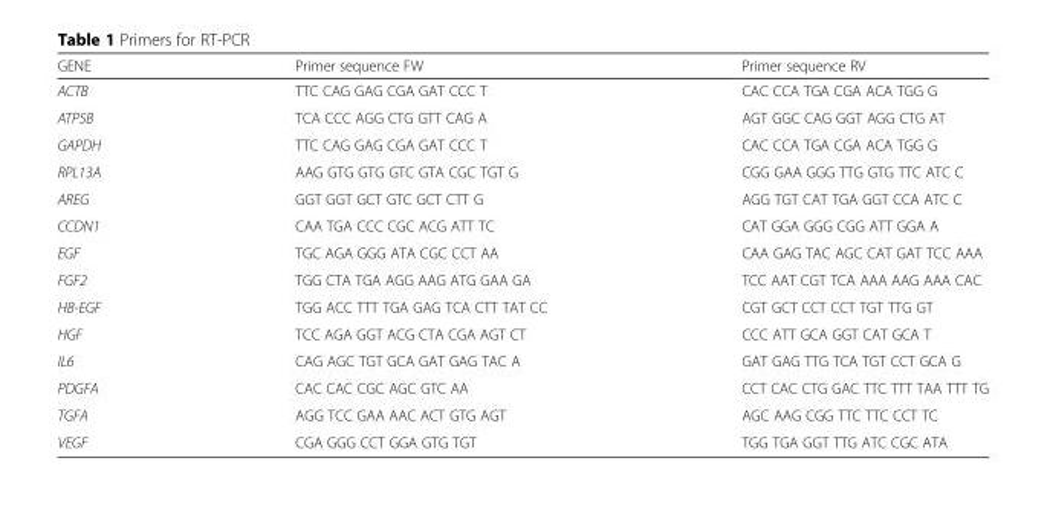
<table><thead><tr><td>GENE</td><td>Primer sequence FW</td><td>Primer sequence RV</td></tr></thead><tbody><tr><td>ACTB</td><td>TTC CAG GAG CGA GAT CCC T</td><td>CAC CCA TGA CGA ACA TGG G</td></tr><tr><td>ATP5B</td><td>TCA CCC AGG CTG GTT CAG A</td><td>AGT GGC CAG GGT AGG CTG AT</td></tr><tr><td>GAPDH</td><td>TTC CAG GAG CGA GAT CCC T</td><td>CAC CCA TGA CGA ACA TGG G</td></tr><tr><td>RPL13A</td><td>AAG GTG GTG GTC GTA CGC TGT G</td><td>CGG GAA GGG TTG GTG TTC ATC C</td></tr><tr><td>AREG</td><td>GGT GGT GCT GTC GCT CTT G</td><td>AGG TGT CAT TGA GGT CCA ATC C</td></tr><tr><td>CCDN1</td><td>CAA TGA CCC CGC ACG ATT TC</td><td>CAT GGA GGG CGG ATT GGA A</td></tr><tr><td>EGF</td><td>TGC AGA GGG ATA CGC CCT AA</td><td>CAA GAG TAC AGC CAT GAT TCC AAA</td></tr><tr><td>FGF2</td><td>TGG CTA TGA AGG AAG ATG GAA GA</td><td>TCC AAT CGT TCA AAA AAG AAA CAC</td></tr><tr><td>HB-EGF</td><td>TGG ACC TTT TGA GAG TCA CTT TAT CC</td><td>CGT GCT CCT CCT TGT TTG GT</td></tr><tr><td>HGF</td><td>TCC AGA GGT ACG CTA CGA AGT CT</td><td>CCC ATT GCA GGT CAT GCA T</td></tr><tr><td>IL6</td><td>CAG AGC TGT GCA GAT GAG TAC A</td><td>GAT GAG TTG TCA TGT CCT GCA G</td></tr><tr><td>PDGFA</td><td>CAC CAC CGC AGC GTC AA</td><td>CCT CAC CTG GAC TTC TTT TAA TTT TG</td></tr><tr><td>TGFA</td><td>AGG TCC GAA AAC ACT GTG AGT</td><td>AGC AAG CGG TTC TTC CCT TC</td></tr><tr><td>VEGF</td><td>CGA GGG CCT GGA GTG TGT</td><td>TGG TGA GGT TTG ATC CGC ATA</td></tr></tbody></table>